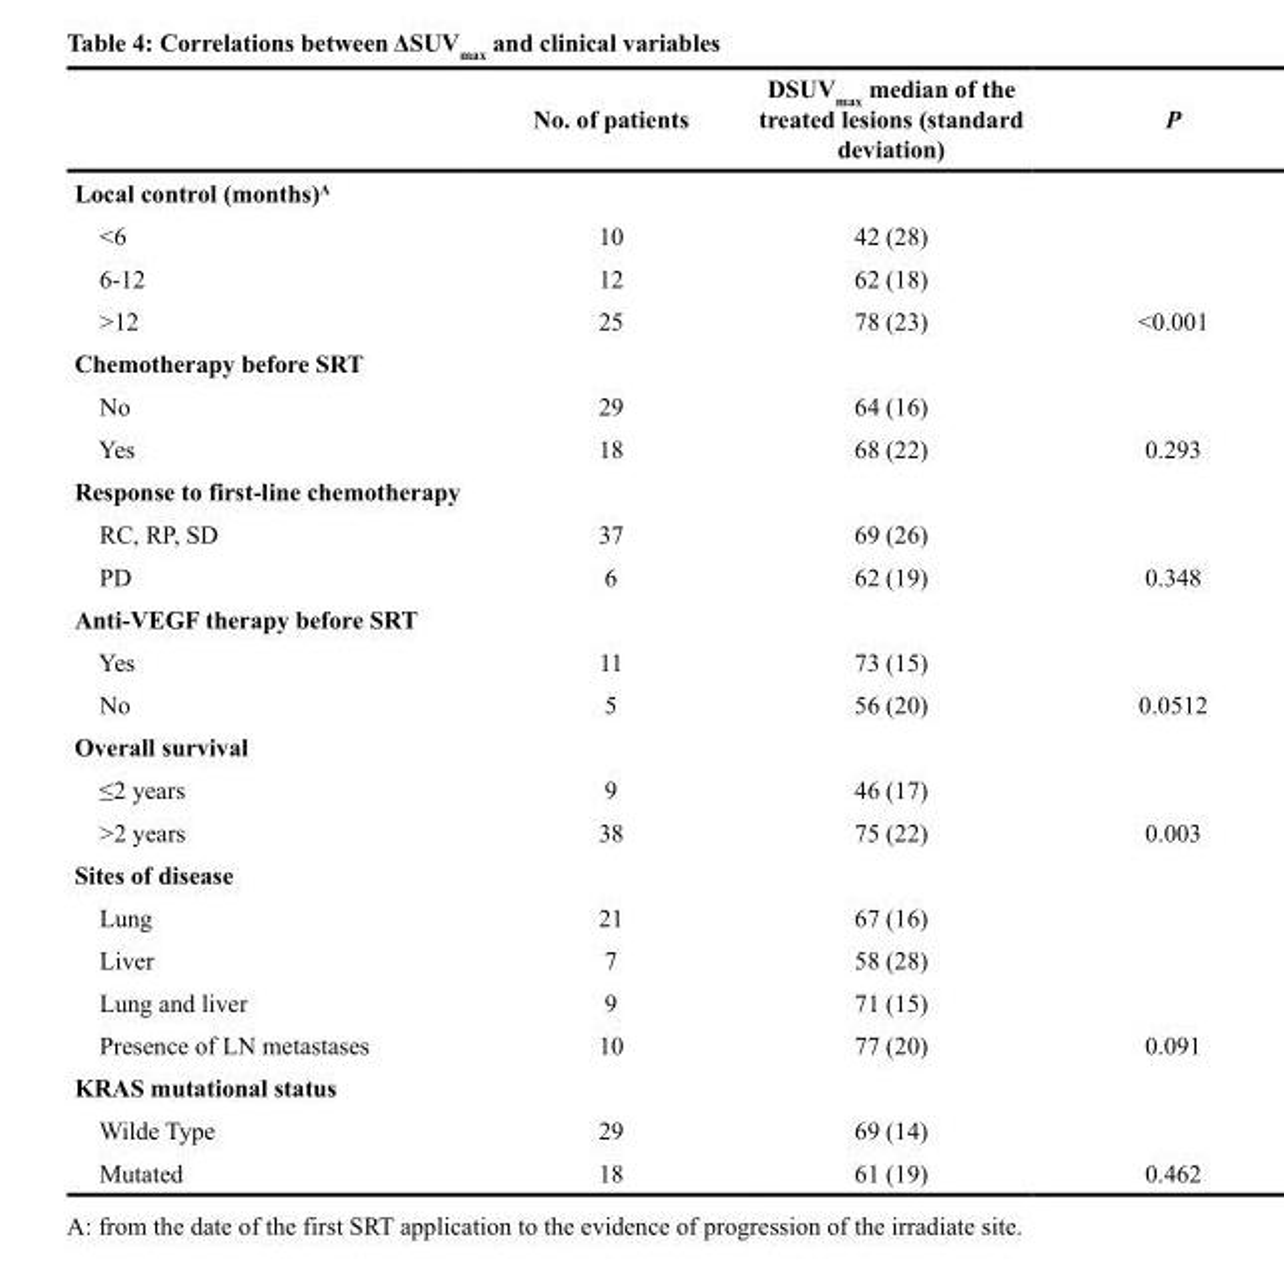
<table><thead><tr><td></td><td>No. of patients</td><td>DSUV<sub>max</sub> median of the treated lesions (standard deviation)</td><td>P</td></tr></thead><tbody><tr><td colspan="4">Local control (months)<sup>A</sup></td></tr><tr><td>&lt;6</td><td>10</td><td>42 (28)</td><td></td></tr><tr><td>6-12</td><td>12</td><td>62 (18)</td><td></td></tr><tr><td>&gt;12</td><td>25</td><td>78 (23)</td><td>&lt;0.001</td></tr><tr><td colspan="4">Chemotherapy before SRT</td></tr><tr><td>No</td><td>29</td><td>64 (16)</td><td></td></tr><tr><td>Yes</td><td>18</td><td>68 (22)</td><td>0.293</td></tr><tr><td colspan="4">Response to first-line chemotherapy</td></tr><tr><td>RC, RP, SD</td><td>37</td><td>69 (26)</td><td></td></tr><tr><td>PD</td><td>6</td><td>62 (19)</td><td>0.348</td></tr><tr><td colspan="4">Anti-VEGF therapy before SRT</td></tr><tr><td>Yes</td><td>11</td><td>73 (15)</td><td></td></tr><tr><td>No</td><td>5</td><td>56 (20)</td><td>0.0512</td></tr><tr><td colspan="4">Overall survival</td></tr><tr><td>≤2 years</td><td>9</td><td>46 (17)</td><td></td></tr><tr><td>&gt;2 years</td><td>38</td><td>75 (22)</td><td>0.003</td></tr><tr><td colspan="4">Sites of disease</td></tr><tr><td>Lung</td><td>21</td><td>67 (16)</td><td></td></tr><tr><td>Liver</td><td>7</td><td>58 (28)</td><td></td></tr><tr><td>Lung and liver</td><td>9</td><td>71 (15)</td><td></td></tr><tr><td>Presence of LN metastases</td><td>10</td><td>77 (20)</td><td>0.091</td></tr><tr><td colspan="4">KRAS mutational status</td></tr><tr><td>Wilde Type</td><td>29</td><td>69 (14)</td><td></td></tr><tr><td>Mutated</td><td>18</td><td>61 (19)</td><td>0.462</td></tr></tbody></table>